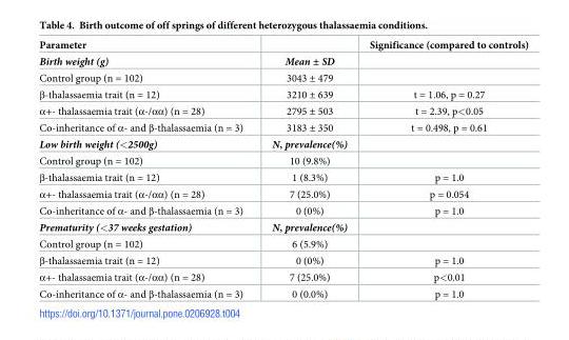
<table><thead><tr><td>Parameter</td><td></td><td>Significance (compared to controls)</td></tr></thead><tbody><tr><td>Birth weight (g)</td><td>Mean ± SD</td><td></td></tr><tr><td>Control group (n = 102)</td><td>3043 ± 479</td><td></td></tr><tr><td>β-thalassaemia trait (n = 12)</td><td>3210 ± 639</td><td>t = 1.06, p = 0.27</td></tr><tr><td>α+- thalassaemia trait (α-/αα) (n = 28)</td><td>2795 ± 503</td><td>t = 2.39, p&lt;0.05</td></tr><tr><td>Co-inheritance of α- and β-thalassaemia (n = 3)</td><td>3183 ± 350</td><td>t = 0.498, p = 0.61</td></tr><tr><td>Low birth weight (&lt;2500g)</td><td>N, prevalence(%)</td><td></td></tr><tr><td>Control group (n = 102)</td><td>10 (9.8%)</td><td></td></tr><tr><td>β-thalassaemia trait (n = 12)</td><td>1 (8.3%)</td><td>p = 1.0</td></tr><tr><td>α+- thalassaemia trait (α-/αα) (n = 28)</td><td>7 (25.0%)</td><td>p = 0.054</td></tr><tr><td>Co-inheritance of α- and β-thalassaemia (n = 3)</td><td>0 (0%)</td><td>p = 1.0</td></tr><tr><td>Prematurity (&lt;37 weeks gestation)</td><td>N, prevalence(%)</td><td></td></tr><tr><td>Control group (n = 102)</td><td>6 (5.9%)</td><td></td></tr><tr><td>β-thalassaemia trait (n = 12)</td><td>0 (0%)</td><td>p = 1.0</td></tr><tr><td>α+- thalassaemia trait (α-/αα) (n = 28)</td><td>7 (25.0%)</td><td>p&lt;0.01</td></tr><tr><td>Co-inheritance of α- and β-thalassaemia (n = 3)</td><td>0 (0.0%)</td><td>p = 1.0</td></tr></tbody></table>